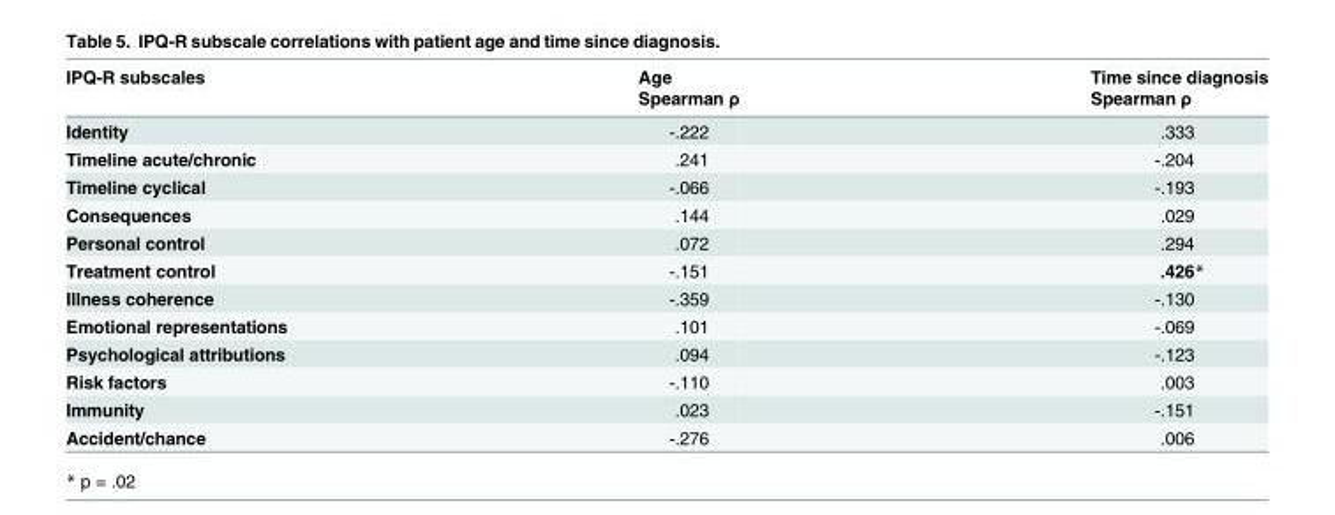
<table><thead><tr><td rowspan="2">IPQ-R subscales</td><td rowspan="2">Age Spearman ρ</td><td rowspan="2">Time since diagnosis Spearman ρ</td></tr><tr></tr></thead><tbody><tr><td>Identity</td><td>-.222</td><td>.333</td></tr><tr><td>Timeline acute/chronic</td><td>.241</td><td>-.204</td></tr><tr><td>Timeline cyclical</td><td>-.066</td><td>-.193</td></tr><tr><td>Consequences</td><td>.144</td><td>.029</td></tr><tr><td>Personal control</td><td>.072</td><td>.294</td></tr><tr><td>Treatment control</td><td>-.151</td><td>.426*</td></tr><tr><td>Illness coherence</td><td>-.359</td><td>-.130</td></tr><tr><td>Emotional representations</td><td>.101</td><td>-.069</td></tr><tr><td>Psychological attributions</td><td>.094</td><td>-.123</td></tr><tr><td>Risk factors</td><td>-.110</td><td>.003</td></tr><tr><td>Immunity</td><td>.023</td><td>-.151</td></tr><tr><td>Accident/chance</td><td>-.276</td><td>.006</td></tr></tbody></table>